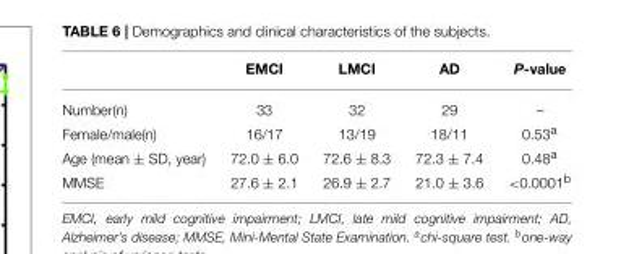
<table><thead><tr><td></td><td>EMCI</td><td>LMCI</td><td>AD</td><td>P-value</td></tr></thead><tbody><tr><td>Number(n)</td><td>33</td><td>32</td><td>29</td><td>–</td></tr><tr><td>Female/male(n)</td><td>16/17</td><td>13/19</td><td>18/11</td><td>0.53<sup>a</sup></td></tr><tr><td>Age (mean ± SD, year)</td><td>72.0 ± 6.0</td><td>72.6 ± 8.3</td><td>72.3 ± 7.4</td><td>0.48<sup>a</sup></td></tr><tr><td>MMSE</td><td>27.6 ± 2.1</td><td>26.9 ± 2.7</td><td>21.0 ± 3.6</td><td>&lt;0.0001<sup>b</sup></td></tr></tbody></table>